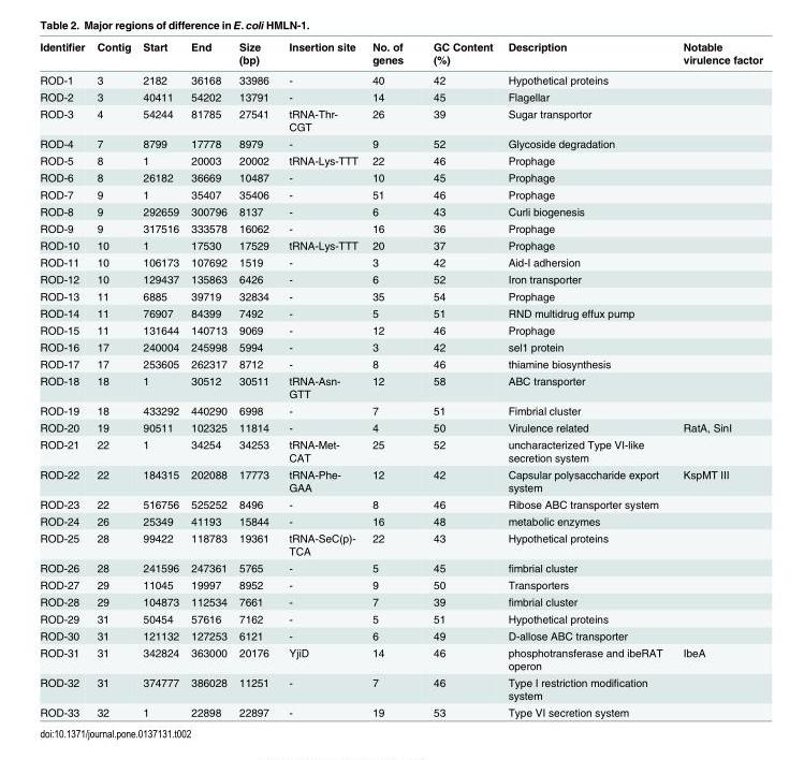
<table><thead><tr><td>Identifier</td><td>Contig</td><td>Start</td><td>End</td><td>Size (bp)</td><td>Insertion site</td><td>No. of genes</td><td>GC Content (%)</td><td>Description</td><td>Notable virulence factor</td></tr></thead><tbody><tr><td>ROD-1</td><td>3</td><td>2182</td><td>36168</td><td>33986</td><td>-</td><td>40</td><td>42</td><td>Hypothetical proteins</td><td></td></tr><tr><td>ROD-2</td><td>3</td><td>40411</td><td>54202</td><td>13791</td><td>-</td><td>14</td><td>45</td><td>Flagellar</td><td></td></tr><tr><td>ROD-3</td><td>4</td><td>54244</td><td>81785</td><td>27541</td><td>tRNA-Thr- CGT</td><td>26</td><td>39</td><td>Sugar transportor</td><td></td></tr><tr><td>ROD-4</td><td>7</td><td>8799</td><td>17778</td><td>8979</td><td>-</td><td>9</td><td>52</td><td>Glycoside degradation</td><td></td></tr><tr><td>ROD-5</td><td>8</td><td>1</td><td>20003</td><td>20002</td><td>tRNA-Lys-TTT</td><td>22</td><td>46</td><td>Prophage</td><td></td></tr><tr><td>ROD-6</td><td>8</td><td>26182</td><td>36669</td><td>10487</td><td>-</td><td>10</td><td>45</td><td>Prophage</td><td></td></tr><tr><td>ROD-7</td><td>9</td><td>1</td><td>35407</td><td>35406</td><td>-</td><td>51</td><td>46</td><td>Prophage</td><td></td></tr><tr><td>ROD-8</td><td>9</td><td>292659</td><td>300796</td><td>8137</td><td>-</td><td>6</td><td>43</td><td>Curli biogenesis</td><td></td></tr><tr><td>ROD-9</td><td>9</td><td>317516</td><td>333578</td><td>16062</td><td>-</td><td>16</td><td>36</td><td>Prophage</td><td></td></tr><tr><td>ROD-10</td><td>10</td><td>1</td><td>17530</td><td>17529</td><td>tRNA-Lys-TTT</td><td>20</td><td>37</td><td>Prophage</td><td></td></tr><tr><td>ROD-11</td><td>10</td><td>106173</td><td>107692</td><td>1519</td><td>-</td><td>3</td><td>42</td><td>Aid-I adhersion</td><td></td></tr><tr><td>ROD-12</td><td>10</td><td>129437</td><td>135863</td><td>6426</td><td>-</td><td>6</td><td>52</td><td>Iron transporter</td><td></td></tr><tr><td>ROD-13</td><td>11</td><td>6885</td><td>39719</td><td>32834</td><td>-</td><td>35</td><td>54</td><td>Prophage</td><td></td></tr><tr><td>ROD-14</td><td>11</td><td>76907</td><td>84399</td><td>7492</td><td>-</td><td>5</td><td>51</td><td>RND multidrug effux pump</td><td></td></tr><tr><td>ROD-15</td><td>11</td><td>131644</td><td>140713</td><td>9069</td><td>-</td><td>12</td><td>46</td><td>Prophage</td><td></td></tr><tr><td>ROD-16</td><td>17</td><td>240004</td><td>245998</td><td>5994</td><td>-</td><td>3</td><td>42</td><td>sel1 protein</td><td></td></tr><tr><td>ROD-17</td><td>17</td><td>253605</td><td>262317</td><td>8712</td><td>-</td><td>8</td><td>46</td><td>thiamine biosynthesis</td><td></td></tr><tr><td>ROD-18</td><td>18</td><td>1</td><td>30512</td><td>30511</td><td>tRNA-Asn- GTT</td><td>12</td><td>58</td><td>ABC transporter</td><td></td></tr><tr><td>ROD-19</td><td>18</td><td>433292</td><td>440290</td><td>6998</td><td>-</td><td>7</td><td>51</td><td>Fimbrial cluster</td><td></td></tr><tr><td>ROD-20</td><td>19</td><td>90511</td><td>102325</td><td>11814</td><td>-</td><td>4</td><td>50</td><td>Virulence related</td><td>RatA, SinI</td></tr><tr><td>ROD-21</td><td>22</td><td>1</td><td>34254</td><td>34253</td><td>tRNA-Met- CAT</td><td>25</td><td>52</td><td>uncharacterized Type VI-like secretion system</td><td></td></tr><tr><td>ROD-22</td><td>22</td><td>184315</td><td>202088</td><td>17773</td><td>tRNA-Phe- GAA</td><td>12</td><td>42</td><td>Capsular polysaccharide export system</td><td>KspMT III</td></tr><tr><td>ROD-23</td><td>22</td><td>516756</td><td>525252</td><td>8496</td><td>-</td><td>8</td><td>46</td><td>Ribose ABC transporter system</td><td></td></tr><tr><td>ROD-24</td><td>26</td><td>25349</td><td>41193</td><td>15844</td><td>-</td><td>16</td><td>48</td><td>metabolic enzymes</td><td></td></tr><tr><td>ROD-25</td><td>28</td><td>99422</td><td>118783</td><td>19361</td><td>tRNA-SeC(p)- TCA</td><td>22</td><td>43</td><td>Hypothetical proteins</td><td></td></tr><tr><td>ROD-26</td><td>28</td><td>241596</td><td>247361</td><td>5765</td><td>-</td><td>5</td><td>45</td><td>fimbrial cluster</td><td></td></tr><tr><td>ROD-27</td><td>29</td><td>11045</td><td>19997</td><td>8952</td><td>-</td><td>9</td><td>50</td><td>Transporters</td><td></td></tr><tr><td>ROD-28</td><td>29</td><td>104873</td><td>112534</td><td>7661</td><td>-</td><td>7</td><td>39</td><td>fimbrial cluster</td><td></td></tr><tr><td>ROD-29</td><td>31</td><td>50454</td><td>57616</td><td>7162</td><td>-</td><td>5</td><td>51</td><td>Hypothetical proteins</td><td></td></tr><tr><td>ROD-30</td><td>31</td><td>121132</td><td>127253</td><td>6121</td><td>-</td><td>6</td><td>49</td><td>D-allose ABC transporter</td><td></td></tr><tr><td>ROD-31</td><td>31</td><td>342824</td><td>363000</td><td>20176</td><td>YjiD</td><td>14</td><td>46</td><td>phosphotransferase and ibeRAT operon</td><td>IbeA</td></tr><tr><td>ROD-32</td><td>31</td><td>374777</td><td>386028</td><td>11251</td><td>-</td><td>7</td><td>46</td><td>Type I restriction modification system</td><td></td></tr><tr><td>ROD-33</td><td>32</td><td>1</td><td>22898</td><td>22897</td><td>-</td><td>19</td><td>53</td><td>Type VI secretion system</td><td></td></tr></tbody></table>